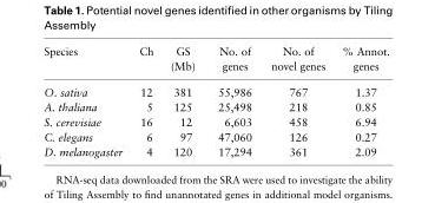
<table><thead><tr><td>Species</td><td>Ch</td><td>GS (Mb)</td><td>No. of genes</td><td>No. of novel genes</td><td>% Annot. genes</td></tr></thead><tbody><tr><td>O. sativa</td><td>12</td><td>381</td><td>55,986</td><td>767</td><td>1.37</td></tr><tr><td>A. thaliana</td><td>5</td><td>125</td><td>25,498</td><td>218</td><td>0.85</td></tr><tr><td>S. cerevisiae</td><td>16</td><td>12</td><td>6,603</td><td>458</td><td>6.94</td></tr><tr><td>C. elegans</td><td>6</td><td>97</td><td>47,060</td><td>126</td><td>0.27</td></tr><tr><td>D. melanogaster</td><td>4</td><td>120</td><td>17,294</td><td>361</td><td>2.09</td></tr></tbody></table>